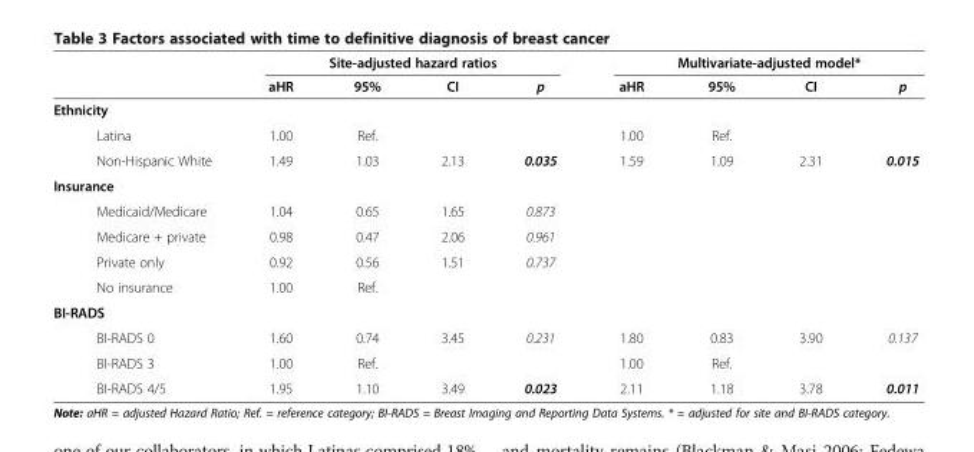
<table><thead><tr><td rowspan="2"></td><td colspan="4">Site-adjusted hazard ratios</td><td colspan="4">Multivariate-adjusted model*</td></tr><tr><td>aHR</td><td>95%</td><td>CI</td><td>p</td><td>aHR</td><td>95%</td><td>CI</td><td>p</td></tr></thead><tbody><tr><td colspan="9">Ethnicity</td></tr><tr><td>Latina</td><td>1.00</td><td>Ref.</td><td></td><td></td><td>1.00</td><td>Ref.</td><td></td><td></td></tr><tr><td>Non-Hispanic White</td><td>1.49</td><td>1.03</td><td>2.13</td><td>0.035</td><td>1.59</td><td>1.09</td><td>2.31</td><td>0.015</td></tr><tr><td colspan="9">Insurance</td></tr><tr><td>Medicaid/Medicare</td><td>1.04</td><td>0.65</td><td>1.65</td><td>0.873</td><td></td><td></td><td></td><td></td></tr><tr><td>Medicare + private</td><td>0.98</td><td>0.47</td><td>2.06</td><td>0.961</td><td></td><td></td><td></td><td></td></tr><tr><td>Private only</td><td>0.92</td><td>0.56</td><td>1.51</td><td>0.737</td><td></td><td></td><td></td><td></td></tr><tr><td>No insurance</td><td>1.00</td><td>Ref.</td><td></td><td></td><td></td><td></td><td></td><td></td></tr><tr><td colspan="9">BI-RADS</td></tr><tr><td>BI-RADS 0</td><td>1.60</td><td>0.74</td><td>3.45</td><td>0.231</td><td>1.80</td><td>0.83</td><td>3.90</td><td>0.137</td></tr><tr><td>BI-RADS 3</td><td>1.00</td><td>Ref.</td><td></td><td></td><td>1.00</td><td>Ref.</td><td></td><td></td></tr><tr><td>BI-RADS 4/5</td><td>1.95</td><td>1.10</td><td>3.49</td><td>0.023</td><td>2.11</td><td>1.18</td><td>3.78</td><td>0.011</td></tr></tbody></table>